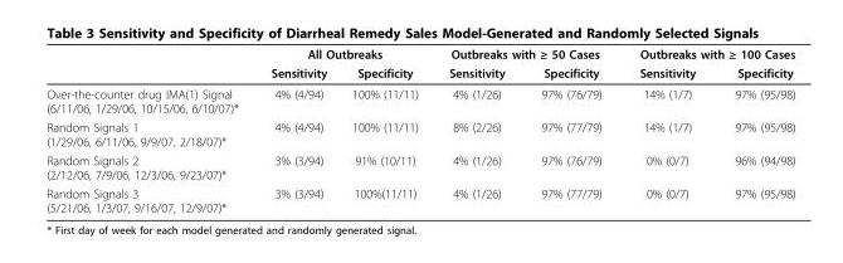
<table><thead><tr><td rowspan="2"></td><td colspan="2">All Outbreaks</td><td colspan="2">Outbreaks with ≥ 50 Cases</td><td colspan="2">Outbreaks with ≥ 100 Cases</td></tr><tr><td>Sensitivity</td><td>Specificity</td><td>Sensitivity</td><td>Specificity</td><td>Sensitivity</td><td>Specificity</td></tr></thead><tbody><tr><td>Over-the-counter drug IMA(1) Signal (6/11/06, 1/29/06, 10/15/06, 6/10/07)*</td><td>4% (4/94)</td><td>100% (11/11)</td><td>4% (1/26)</td><td>97% (76/79)</td><td>14% (1/7)</td><td>97% (95/98)</td></tr><tr><td>Random Signals 1 (1/29/06, 6/11/06, 9/9/07, 2/18/07)*</td><td>4% (4/94)</td><td>100% (11/11)</td><td>8% (2/26)</td><td>97% (77/79)</td><td>14% (1/7)</td><td>97% (95/98)</td></tr><tr><td>Random Signals 2 (2/12/06, 7/9/06, 12/3/06, 9/23/07)*</td><td>3% (3/94)</td><td>91% (10/11)</td><td>4% (1/26)</td><td>97% (76/79)</td><td>0% (0/7)</td><td>96% (94/98)</td></tr><tr><td>Random Signals 3 (5/21/06, 1/3/07, 9/16/07, 12/9/07)*</td><td>3% (3/94)</td><td>100%(11/11)</td><td>4% (1/26)</td><td>97% (77/79)</td><td>0% (0/7)</td><td>97% (95/98)</td></tr></tbody></table>